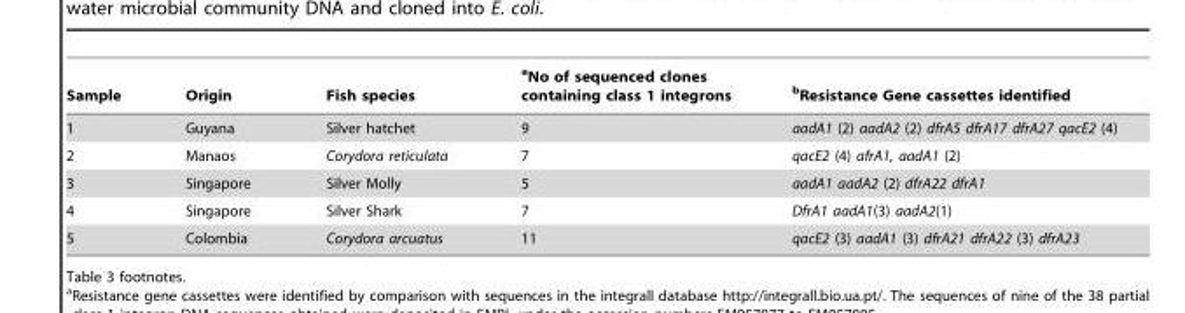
<table><thead><tr><td>Sample</td><td>Origin</td><td>Fish species</td><td>aNo of sequenced clones containing class 1 integrons</td><td>bResistance Gene cassettes identified</td></tr></thead><tbody><tr><td>1</td><td>Guyana</td><td>Silver hatchet</td><td>9</td><td>aadA1 (2) aadA2 (2) dfrA5 dfrA17 dfrA27 qacE2 (4)</td></tr><tr><td>2</td><td>Manaos</td><td>Corydora reticulata</td><td>7</td><td>qacE2 (4) afrA1, aadA1 (2)</td></tr><tr><td>3</td><td>Singapore</td><td>Silver Molly</td><td>5</td><td>aadA1 aadA2 (2) dfrA22 dfrA1</td></tr><tr><td>4</td><td>Singapore</td><td>Silver Shark</td><td>7</td><td>DfrA1 aadA1(3) aadA2(1)</td></tr><tr><td>5</td><td>Colombia</td><td>Corydora arcuatus</td><td>11</td><td>qacE2 (3) aadA1 (3) dfrA21 dfrA22 (3) dfrA23</td></tr></tbody></table>